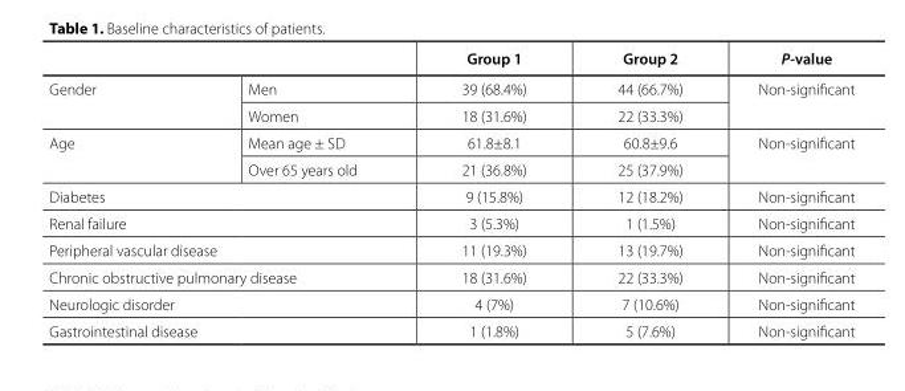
<table><thead><tr><td></td><td></td><td>Group 1</td><td>Group 2</td><td>P-value</td></tr></thead><tbody><tr><td rowspan="2">Gender</td><td>Men</td><td>39 (68.4%)</td><td>44 (66.7%)</td><td rowspan="2">Non-significant</td></tr><tr><td>Women</td><td>18 (31.6%)</td><td>22 (33.3%)</td></tr><tr><td rowspan="2">Age</td><td>Mean age ± SD</td><td>61.8±8.1</td><td>60.8±9.6</td><td rowspan="2">Non-significant</td></tr><tr><td>Over 65 years old</td><td>21 (36.8%)</td><td>25 (37.9%)</td></tr><tr><td colspan="2">Diabetes</td><td>9 (15.8%)</td><td>12 (18.2%)</td><td>Non-significant</td></tr><tr><td colspan="2">Renal failure</td><td>3 (5.3%)</td><td>1 (1.5%)</td><td>Non-significant</td></tr><tr><td colspan="2">Peripheral vascular disease</td><td>11 (19.3%)</td><td>13 (19.7%)</td><td>Non-significant</td></tr><tr><td colspan="2">Chronic obstructive pulmonary disease</td><td>18 (31.6%)</td><td>22 (33.3%)</td><td>Non-significant</td></tr><tr><td colspan="2">Neurologic disorder</td><td>4 (7%)</td><td>7 (10.6%)</td><td>Non-significant</td></tr><tr><td colspan="2">Gastrointestinal disease</td><td>1 (1.8%)</td><td>5 (7.6%)</td><td>Non-significant</td></tr></tbody></table>